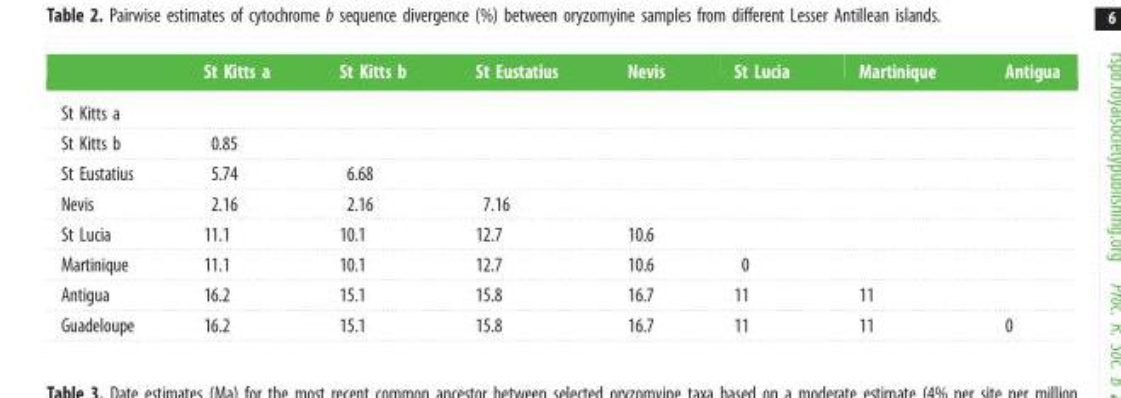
<table><thead><tr><td></td><td>St Kitts a</td><td>St Kitts b</td><td>St Eustatius</td><td>Nevis</td><td>St Lucia</td><td>Martinique</td><td>Antigua</td></tr></thead><tbody><tr><td colspan="8">St Kitts a</td></tr><tr><td>St Kitts b</td><td>0.85</td><td></td><td></td><td></td><td></td><td></td><td></td></tr><tr><td>St Eustatius</td><td>5.74</td><td>6.68</td><td></td><td></td><td></td><td></td><td></td></tr><tr><td>Nevis</td><td>2.16</td><td>2.16</td><td>7.16</td><td></td><td></td><td></td><td></td></tr><tr><td>St Lucia</td><td>11.1</td><td>10.1</td><td>12.7</td><td>10.6</td><td></td><td></td><td></td></tr><tr><td>Martinique</td><td>11.1</td><td>10.1</td><td>12.7</td><td>10.6</td><td>0</td><td></td><td></td></tr><tr><td>Antigua</td><td>16.2</td><td>15.1</td><td>15.8</td><td>16.7</td><td>11</td><td>11</td><td></td></tr><tr><td>Guadeloupe</td><td>16.2</td><td>15.1</td><td>15.8</td><td>16.7</td><td>11</td><td>11</td><td>0</td></tr></tbody></table>